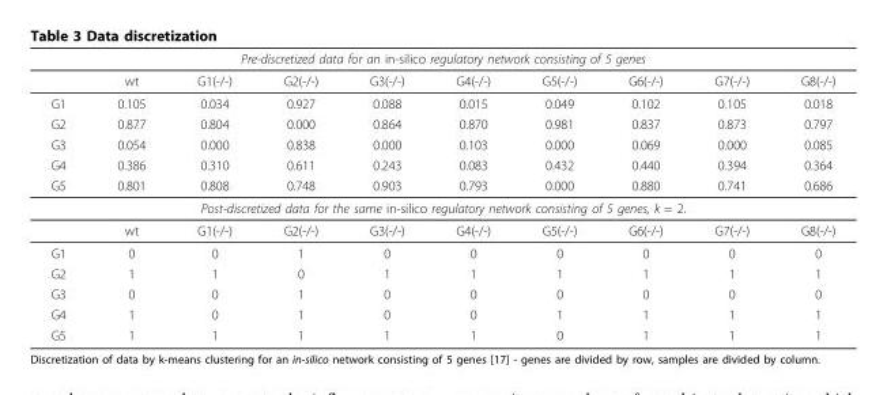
<table><thead><tr><td colspan="10">Pre-discretized data for an in-silico regulatory network consisting of 5 genes</td></tr><tr><td></td><td>wt</td><td>G1(-/-)</td><td>G2(-/-)</td><td>G3(-/-)</td><td>G4(-/-)</td><td>G5(-/-)</td><td>G6(-/-)</td><td>G7(-/-)</td><td>G8(-/-)</td></tr></thead><tbody><tr><td>G1</td><td>0.105</td><td>0.034</td><td>0.927</td><td>0.088</td><td>0.015</td><td>0.049</td><td>0.102</td><td>0.105</td><td>0.018</td></tr><tr><td>G2</td><td>0.877</td><td>0.804</td><td>0.000</td><td>0.864</td><td>0.870</td><td>0.981</td><td>0.837</td><td>0.873</td><td>0.797</td></tr><tr><td>G3</td><td>0.054</td><td>0.000</td><td>0.838</td><td>0.000</td><td>0.103</td><td>0.000</td><td>0.069</td><td>0.000</td><td>0.085</td></tr><tr><td>G4</td><td>0.386</td><td>0.310</td><td>0.611</td><td>0.243</td><td>0.083</td><td>0.432</td><td>0.440</td><td>0.394</td><td>0.364</td></tr><tr><td>G5</td><td>0.801</td><td>0.808</td><td>0.748</td><td>0.903</td><td>0.793</td><td>0.000</td><td>0.880</td><td>0.741</td><td>0.686</td></tr><tr><td colspan="10">Post-discretized data for the same in-silico regulatory network consisting of 5 genes, k = 2.</td></tr><tr><td></td><td>wt</td><td>G1(-/-)</td><td>G2(-/-)</td><td>G3(-/-)</td><td>G4(-/-)</td><td>G5(-/-)</td><td>G6(-/-)</td><td>G7(-/-)</td><td>G8(-/-)</td></tr><tr><td>G1</td><td>0</td><td>0</td><td>1</td><td>0</td><td>0</td><td>0</td><td>0</td><td>0</td><td>0</td></tr><tr><td>G2</td><td>1</td><td>1</td><td>0</td><td>1</td><td>1</td><td>1</td><td>1</td><td>1</td><td>1</td></tr><tr><td>G3</td><td>0</td><td>0</td><td>1</td><td>0</td><td>0</td><td>0</td><td>0</td><td>0</td><td>0</td></tr><tr><td>G4</td><td>1</td><td>0</td><td>1</td><td>0</td><td>0</td><td>1</td><td>1</td><td>1</td><td>1</td></tr><tr><td>G5</td><td>1</td><td>1</td><td>1</td><td>1</td><td>1</td><td>0</td><td>1</td><td>1</td><td>1</td></tr></tbody></table>